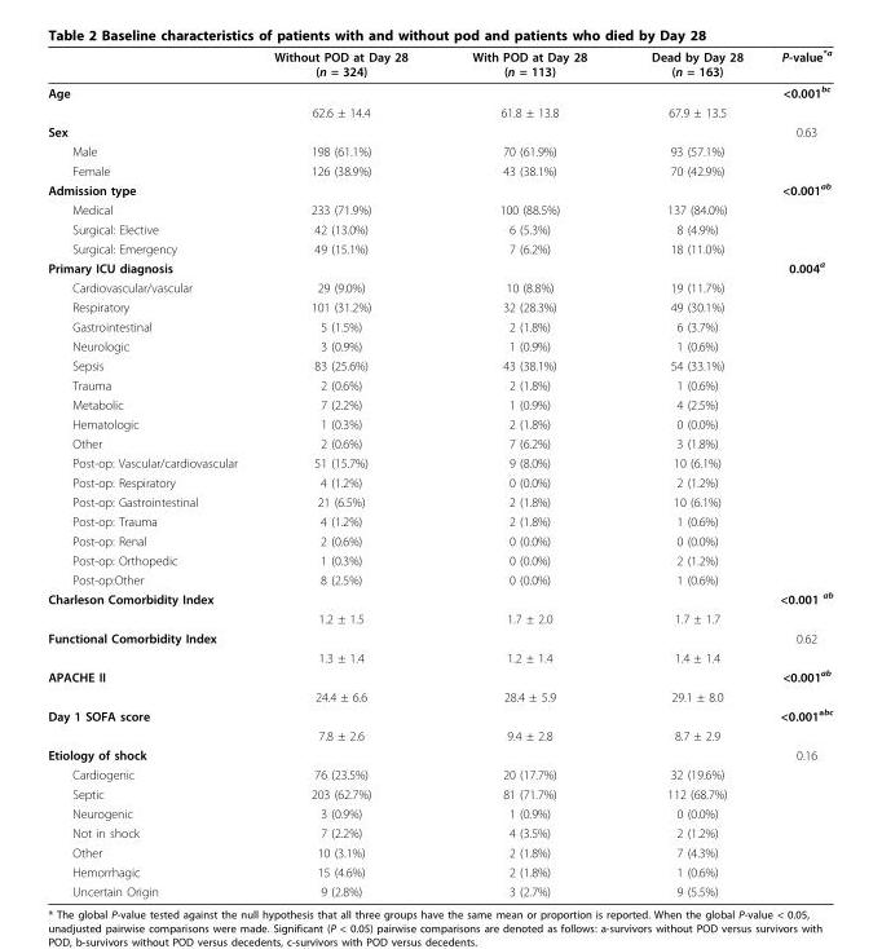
<table><thead><tr><td></td><td>Without POD at Day 28 (n = 324)</td><td>With POD at Day 28 (n = 113)</td><td>Dead by Day 28 (n = 163)</td><td>P-value<sup>*a</sup></td></tr></thead><tbody><tr><td rowspan="2">Age</td><td></td><td></td><td></td><td>&lt;0.001<sup>bc</sup></td></tr><tr><td>62.6 ± 14.4</td><td>61.8 ± 13.8</td><td>67.9 ± 13.5</td><td></td></tr><tr><td>Sex</td><td></td><td></td><td></td><td>0.63</td></tr><tr><td>Male</td><td>198 (61.1%)</td><td>70 (61.9%)</td><td>93 (57.1%)</td><td></td></tr><tr><td>Female</td><td>126 (38.9%)</td><td>43 (38.1%)</td><td>70 (42.9%)</td><td></td></tr><tr><td>Admission type</td><td></td><td></td><td></td><td>&lt;0.001<sup>ab</sup></td></tr><tr><td>Medical</td><td>233 (71.9%)</td><td>100 (88.5%)</td><td>137 (84.0%)</td><td></td></tr><tr><td>Surgical: Elective</td><td>42 (13.0%)</td><td>6 (5.3%)</td><td>8 (4.9%)</td><td></td></tr><tr><td>Surgical: Emergency</td><td>49 (15.1%)</td><td>7 (6.2%)</td><td>18 (11.0%)</td><td></td></tr><tr><td>Primary ICU diagnosis</td><td></td><td></td><td></td><td>0.004<sup>a</sup></td></tr><tr><td>Cardiovascular/vascular</td><td>29 (9.0%)</td><td>10 (8.8%)</td><td>19 (11.7%)</td><td></td></tr><tr><td>Respiratory</td><td>101 (31.2%)</td><td>32 (28.3%)</td><td>49 (30.1%)</td><td></td></tr><tr><td>Gastrointestinal</td><td>5 (1.5%)</td><td>2 (1.8%)</td><td>6 (3.7%)</td><td></td></tr><tr><td>Neurologic</td><td>3 (0.9%)</td><td>1 (0.9%)</td><td>1 (0.6%)</td><td></td></tr><tr><td>Sepsis</td><td>83 (25.6%)</td><td>43 (38.1%)</td><td>54 (33.1%)</td><td></td></tr><tr><td>Trauma</td><td>2 (0.6%)</td><td>2 (1.8%)</td><td>1 (0.6%)</td><td></td></tr><tr><td>Metabolic</td><td>7 (2.2%)</td><td>1 (0.9%)</td><td>4 (2.5%)</td><td></td></tr><tr><td>Hematologic</td><td>1 (0.3%)</td><td>2 (1.8%)</td><td>0 (0.0%)</td><td></td></tr><tr><td>Other</td><td>2 (0.6%)</td><td>7 (6.2%)</td><td>3 (1.8%)</td><td></td></tr><tr><td>Post-op: Vascular/cardiovascular</td><td>51 (15.7%)</td><td>9 (8.0%)</td><td>10 (6.1%)</td><td></td></tr><tr><td>Post-op: Respiratory</td><td>4 (1.2%)</td><td>0 (0.0%)</td><td>2 (1.2%)</td><td></td></tr><tr><td>Post-op: Gastrointestinal</td><td>21 (6.5%)</td><td>2 (1.8%)</td><td>10 (6.1%)</td><td></td></tr><tr><td>Post-op: Trauma</td><td>4 (1.2%)</td><td>2 (1.8%)</td><td>1 (0.6%)</td><td></td></tr><tr><td>Post-op: Renal</td><td>2 (0.6%)</td><td>0 (0.0%)</td><td>0 (0.0%)</td><td></td></tr><tr><td>Post-op: Orthopedic</td><td>1 (0.3%)</td><td>0 (0.0%)</td><td>2 (1.2%)</td><td></td></tr><tr><td>Post-op:Other</td><td>8 (2.5%)</td><td>0 (0.0%)</td><td>1 (0.6%)</td><td></td></tr><tr><td rowspan="2">Charleson Comorbidity Index</td><td></td><td></td><td></td><td>&lt;0.001 <sup>ab</sup></td></tr><tr><td>1.2 ± 1.5</td><td>1.7 ± 2.0</td><td>1.7 ± 1.7</td><td></td></tr><tr><td rowspan="2">Functional Comorbidity Index</td><td></td><td></td><td></td><td>0.62</td></tr><tr><td>1.3 ± 1.4</td><td>1.2 ± 1.4</td><td>1.4 ± 1.4</td><td></td></tr><tr><td rowspan="2">APACHE II</td><td></td><td></td><td></td><td>&lt;0.001<sup>ab</sup></td></tr><tr><td>24.4 ± 6.6</td><td>28.4 ± 5.9</td><td>29.1 ± 8.0</td><td></td></tr><tr><td rowspan="2">Day 1 SOFA score</td><td></td><td></td><td></td><td>&lt;0.001<sup>abc</sup></td></tr><tr><td>7.8 ± 2.6</td><td>9.4 ± 2.8</td><td>8.7 ± 2.9</td><td></td></tr><tr><td>Etiology of shock</td><td></td><td></td><td></td><td>0.16</td></tr><tr><td>Cardiogenic</td><td>76 (23.5%)</td><td>20 (17.7%)</td><td>32 (19.6%)</td><td></td></tr><tr><td>Septic</td><td>203 (62.7%)</td><td>81 (71.7%)</td><td>112 (68.7%)</td><td></td></tr><tr><td>Neurogenic</td><td>3 (0.9%)</td><td>1 (0.9%)</td><td>0 (0.0%)</td><td></td></tr><tr><td>Not in shock</td><td>7 (2.2%)</td><td>4 (3.5%)</td><td>2 (1.2%)</td><td></td></tr><tr><td>Other</td><td>10 (3.1%)</td><td>2 (1.8%)</td><td>7 (4.3%)</td><td></td></tr><tr><td>Hemorrhagic</td><td>15 (4.6%)</td><td>2 (1.8%)</td><td>1 (0.6%)</td><td></td></tr><tr><td>Uncertain Origin</td><td>9 (2.8%)</td><td>3 (2.7%)</td><td>9 (5.5%)</td><td></td></tr></tbody></table>